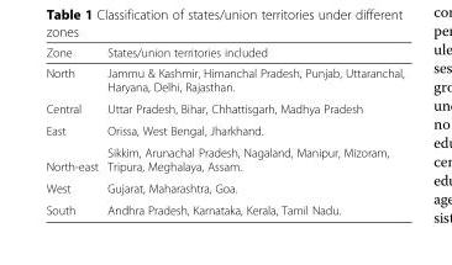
<table><thead><tr><td>Zone</td><td>States/union territories included</td></tr></thead><tbody><tr><td>North</td><td>Jammu &amp; Kashmir, Himanchal Pradesh, Punjab, Uttaranchal, Haryana, Delhi, Rajasthan.</td></tr><tr><td>Central</td><td>Uttar Pradesh, Bihar, Chhattisgarh, Madhya Pradesh</td></tr><tr><td>East</td><td>Orissa, West Bengal, Jharkhand.</td></tr><tr><td>North-east</td><td>Sikkim, Arunachal Pradesh, Nagaland, Manipur, Mizoram, Tripura, Meghalaya, Assam.</td></tr><tr><td>West</td><td>Gujarat, Maharashtra, Goa.</td></tr><tr><td>South</td><td>Andhra Pradesh, Karnataka, Kerala, Tamil Nadu.</td></tr></tbody></table>